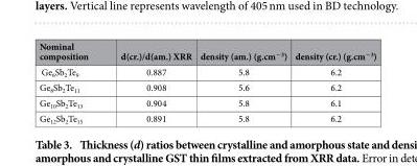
<table><thead><tr><td>Nominal composition</td><td>d(cr.)/d(am.) XRR</td><td>density (am.) (g.cm<sup>−3</sup>)</td><td>density (cr.) (g.cm<sup>−3</sup>)</td></tr></thead><tbody><tr><td>Ge<sub>6</sub>Sb<sub>2</sub>Te<sub>9</sub></td><td>0.887</td><td>5.8</td><td>6.2</td></tr><tr><td>Ge<sub>8</sub>Sb<sub>2</sub>Te<sub>11</sub></td><td>0.908</td><td>5.6</td><td>6.2</td></tr><tr><td>Ge<sub>10</sub>Sb<sub>2</sub>Te<sub>13</sub></td><td>0.904</td><td>5.8</td><td>6.1</td></tr><tr><td>Ge<sub>12</sub>Sb<sub>2</sub>Te<sub>15</sub></td><td>0.891</td><td>5.8</td><td>6.2</td></tr></tbody></table>